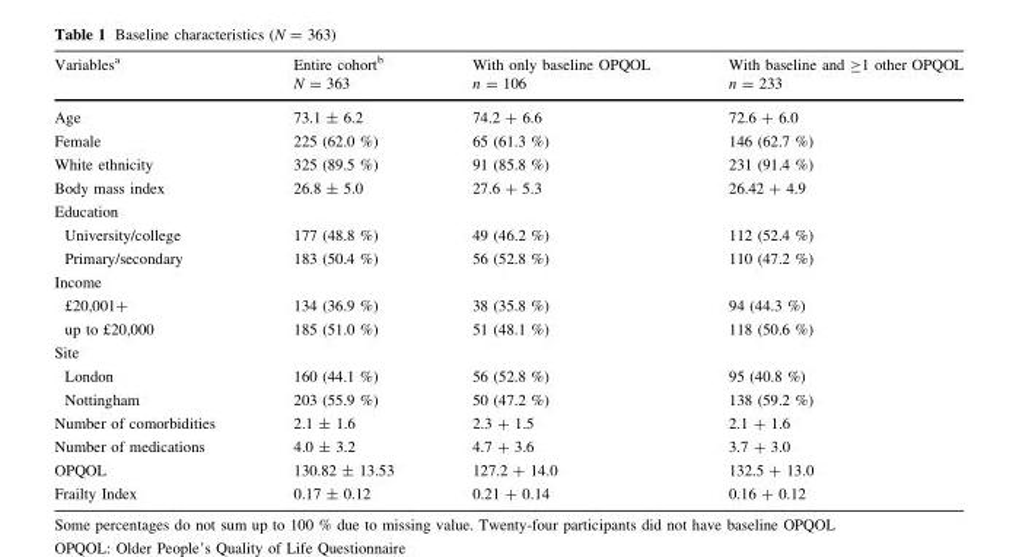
<table><thead><tr><td>Variables<sup>a</sup></td><td>Entire cohort<sup>b</sup> N = 363</td><td>With only baseline OPQOL n = 106</td><td>With baseline and ≥1 other OPQOL n = 233</td></tr></thead><tbody><tr><td>Age</td><td>73.1 ± 6.2</td><td>74.2 + 6.6</td><td>72.6 + 6.0</td></tr><tr><td>Female</td><td>225 (62.0 %)</td><td>65 (61.3 %)</td><td>146 (62.7 %)</td></tr><tr><td>White ethnicity</td><td>325 (89.5 %)</td><td>91 (85.8 %)</td><td>231 (91.4 %)</td></tr><tr><td>Body mass index</td><td>26.8 ± 5.0</td><td>27.6 + 5.3</td><td>26.42 + 4.9</td></tr><tr><td colspan="4">Education</td></tr><tr><td>University/college</td><td>177 (48.8 %)</td><td>49 (46.2 %)</td><td>112 (52.4 %)</td></tr><tr><td>Primary/secondary</td><td>183 (50.4 %)</td><td>56 (52.8 %)</td><td>110 (47.2 %)</td></tr><tr><td colspan="4">Income</td></tr><tr><td>£20,001+</td><td>134 (36.9 %)</td><td>38 (35.8 %)</td><td>94 (44.3 %)</td></tr><tr><td>up to £20,000</td><td>185 (51.0 %)</td><td>51 (48.1 %)</td><td>118 (50.6 %)</td></tr><tr><td colspan="4">Site</td></tr><tr><td>London</td><td>160 (44.1 %)</td><td>56 (52.8 %)</td><td>95 (40.8 %)</td></tr><tr><td>Nottingham</td><td>203 (55.9 %)</td><td>50 (47.2 %)</td><td>138 (59.2 %)</td></tr><tr><td>Number of comorbidities</td><td>2.1 ± 1.6</td><td>2.3 + 1.5</td><td>2.1 + 1.6</td></tr><tr><td>Number of medications</td><td>4.0 ± 3.2</td><td>4.7 + 3.6</td><td>3.7 + 3.0</td></tr><tr><td>OPQOL</td><td>130.82 ± 13.53</td><td>127.2 + 14.0</td><td>132.5 + 13.0</td></tr><tr><td>Frailty Index</td><td>0.17 ± 0.12</td><td>0.21 + 0.14</td><td>0.16 + 0.12</td></tr></tbody></table>